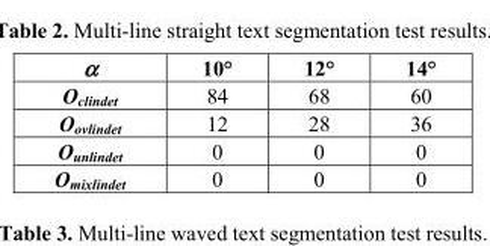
<table><thead><tr><td>α</td><td>10°</td><td>12°</td><td>14°</td></tr></thead><tbody><tr><td>O<sub>clindet</sub></td><td>84</td><td>68</td><td>60</td></tr><tr><td>O<sub>ovlindet</sub></td><td>12</td><td>28</td><td>36</td></tr><tr><td>O<sub>unlindet</sub></td><td>0</td><td>0</td><td>0</td></tr><tr><td>O<sub>mixlindet</sub></td><td>0</td><td>0</td><td>0</td></tr></tbody></table>